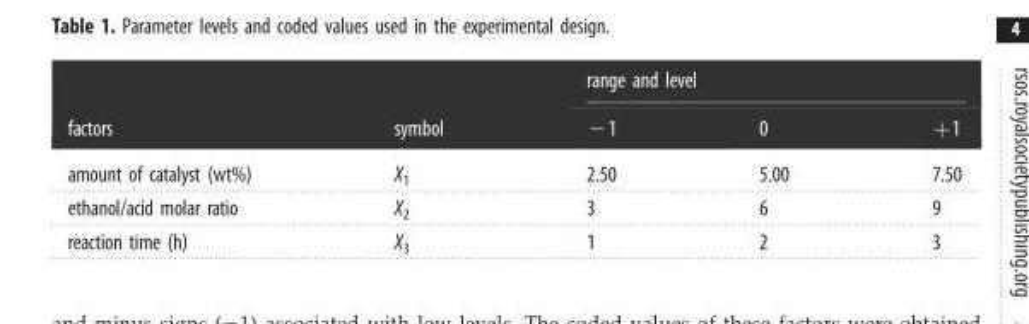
<table><thead><tr><td rowspan="2">factors</td><td rowspan="2">symbol</td><td colspan="3">range and level</td></tr><tr><td>−1</td><td>0</td><td>+1</td></tr></thead><tbody><tr><td>amount of catalyst (wt%)</td><td>X<sub>1</sub></td><td>2.50</td><td>5.00</td><td>7.50</td></tr><tr><td>ethanol/acid molar ratio</td><td>X<sub>2</sub></td><td>3</td><td>6</td><td>9</td></tr><tr><td>reaction time (h)</td><td>X<sub>3</sub></td><td>1</td><td>2</td><td>3</td></tr></tbody></table>